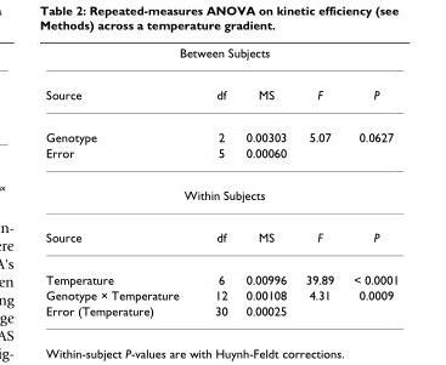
<table><thead><tr><td colspan="5">Between Subjects</td></tr><tr><td>Source</td><td>df</td><td>MS</td><td>F</td><td>P</td></tr></thead><tbody><tr><td>Genotype</td><td>2</td><td>0.00303</td><td>5.07</td><td>0.0627</td></tr><tr><td>Error</td><td>5</td><td>0.00060</td><td></td><td></td></tr><tr><td colspan="5">Within Subjects</td></tr><tr><td>Source</td><td>df</td><td>MS</td><td>F</td><td>P</td></tr><tr><td>Temperature</td><td>6</td><td>0.00996</td><td>39.89</td><td>&lt; 0.0001</td></tr><tr><td>Genotype × Temperature</td><td>12</td><td>0.00108</td><td>4.31</td><td>0.0009</td></tr><tr><td>Error (Temperature)</td><td>30</td><td>0.00025</td><td></td><td></td></tr></tbody></table>